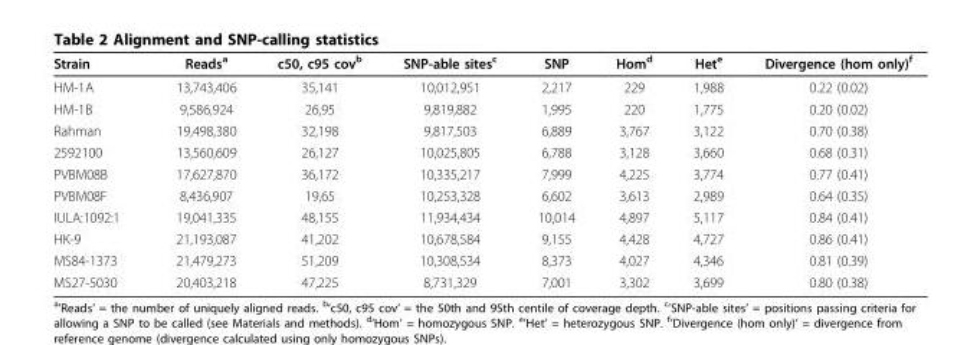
<table><thead><tr><td>Strain</td><td>Reads<sup>a</sup></td><td>c50, c95 cov<sup>b</sup></td><td>SNP-able sites<sup>c</sup></td><td>SNP</td><td>Hom<sup>d</sup></td><td>Het<sup>e</sup></td><td>Divergence (hom only)<sup>f</sup></td></tr></thead><tbody><tr><td>HM-1A</td><td>13,743,406</td><td>35,141</td><td>10,012,951</td><td>2,217</td><td>229</td><td>1,988</td><td>0.22 (0.02)</td></tr><tr><td>HM-1B</td><td>9,586,924</td><td>26,95</td><td>9,819,882</td><td>1,995</td><td>220</td><td>1,775</td><td>0.20 (0.02)</td></tr><tr><td>Rahman</td><td>19,498,380</td><td>32,198</td><td>9,817,503</td><td>6,889</td><td>3,767</td><td>3,122</td><td>0.70 (0.38)</td></tr><tr><td>2592100</td><td>13,560,609</td><td>26,127</td><td>10,025,805</td><td>6,788</td><td>3,128</td><td>3,660</td><td>0.68 (0.31)</td></tr><tr><td>PVBM08B</td><td>17,627,870</td><td>36,172</td><td>10,335,217</td><td>7,999</td><td>4,225</td><td>3,774</td><td>0.77 (0.41)</td></tr><tr><td>PVBM08F</td><td>8,436,907</td><td>19,65</td><td>10,253,328</td><td>6,602</td><td>3,613</td><td>2,989</td><td>0.64 (0.35)</td></tr><tr><td>IULA:1092:1</td><td>19,041,335</td><td>48,155</td><td>11,934,434</td><td>10,014</td><td>4,897</td><td>5,117</td><td>0.84 (0.41)</td></tr><tr><td>HK-9</td><td>21,193,087</td><td>41,202</td><td>10,678,584</td><td>9,155</td><td>4,428</td><td>4,727</td><td>0.86 (0.41)</td></tr><tr><td>MS84-1373</td><td>21,479,273</td><td>51,209</td><td>10,308,534</td><td>8,373</td><td>4,027</td><td>4,346</td><td>0.81 (0.39)</td></tr><tr><td>MS27-5030</td><td>20,403,218</td><td>47,225</td><td>8,731,329</td><td>7,001</td><td>3,302</td><td>3,699</td><td>0.80 (0.38)</td></tr></tbody></table>